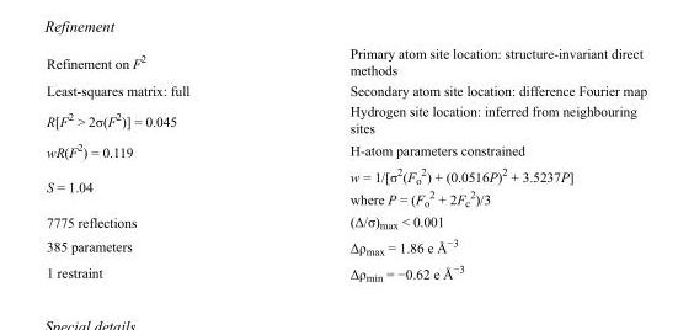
<table><tbody><tr><td>Refinement on F<sup>2</sup></td><td>Primary atom site location: structure-invariant direct methods</td></tr><tr><td>Least-squares matrix: full</td><td>Secondary atom site location: difference Fourier map</td></tr><tr><td>R[F<sup>2</sup> &gt; 2σ(F<sup>2</sup>)] = 0.045</td><td>Hydrogen site location: inferred from neighbouring sites</td></tr><tr><td>wR(F<sup>2</sup>) = 0.119</td><td>H-atom parameters constrained</td></tr><tr><td>S = 1.04</td><td>w = 1/[σ<sup>2</sup>(F<sub>o</sub> <sup>2</sup>) + (0.0516P)<sup>2</sup> + 3.5237P] where P = (F<sub>o</sub> <sup>2</sup> + 2F<sub>c</sub> <sup>2</sup>)/3</td></tr><tr><td>7775 reflections</td><td>(Δ/σ)<sub>max</sub> &lt; 0.001</td></tr><tr><td>385 parameters</td><td>Δρ<sub>max</sub> = 1.86 e Å<sup>−3</sup></td></tr><tr><td>1 restraint</td><td>Δρmin = −0.62 e Å−3</td></tr></tbody></table>